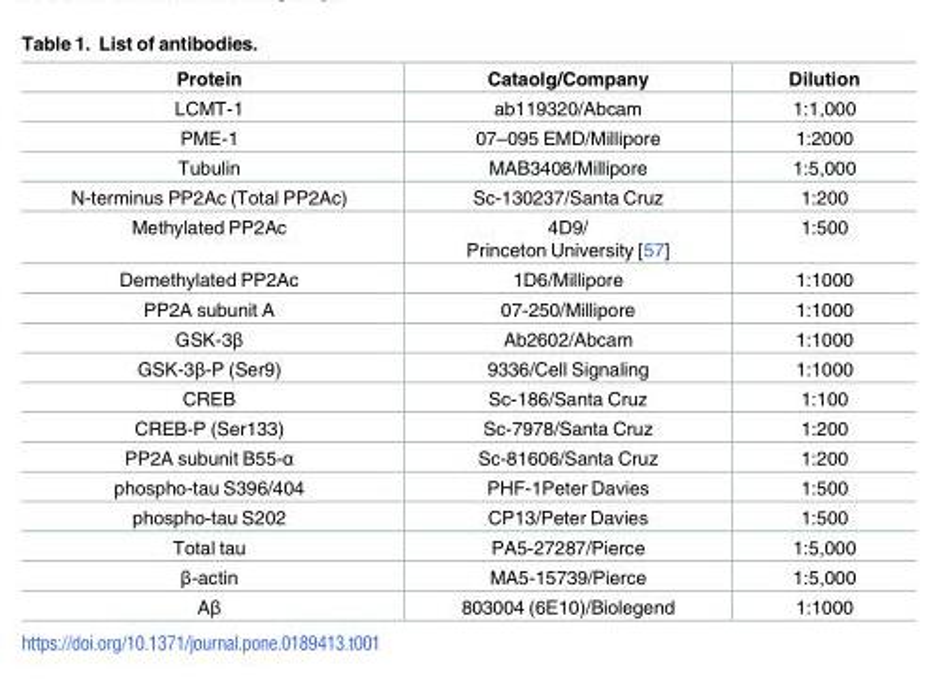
<table><thead><tr><td>Protein</td><td>Cataolg/Company</td><td>Dilution</td></tr></thead><tbody><tr><td>LCMT-1</td><td>ab119320/Abcam</td><td>1:1,000</td></tr><tr><td>PME-1</td><td>07–095 EMD/Millipore</td><td>1:2000</td></tr><tr><td>Tubulin</td><td>MAB3408/Millipore</td><td>1:5,000</td></tr><tr><td>N-terminus PP2Ac (Total PP2Ac)</td><td>Sc-130237/Santa Cruz</td><td>1:200</td></tr><tr><td>Methylated PP2Ac</td><td>4D9/ Princeton University [57]</td><td>1:500</td></tr><tr><td>Demethylated PP2Ac</td><td>1D6/Millipore</td><td>1:1000</td></tr><tr><td>PP2A subunit A</td><td>07-250/Millipore</td><td>1:1000</td></tr><tr><td>GSK-3β</td><td>Ab2602/Abcam</td><td>1:1000</td></tr><tr><td>GSK-3β-P (Ser9)</td><td>9336/Cell Signaling</td><td>1:1000</td></tr><tr><td>CREB</td><td>Sc-186/Santa Cruz</td><td>1:100</td></tr><tr><td>CREB-P (Ser133)</td><td>Sc-7978/Santa Cruz</td><td>1:200</td></tr><tr><td>PP2A subunit B55-α</td><td>Sc-81606/Santa Cruz</td><td>1:200</td></tr><tr><td>phospho-tau S396/404</td><td>PHF-1Peter Davies</td><td>1:500</td></tr><tr><td>phospho-tau S202</td><td>CP13/Peter Davies</td><td>1:500</td></tr><tr><td>Total tau</td><td>PA5-27287/Pierce</td><td>1:5,000</td></tr><tr><td>β-actin</td><td>MA5-15739/Pierce</td><td>1:5,000</td></tr><tr><td>Aβ</td><td>803004 (6E10)/Biolegend</td><td>1:1000</td></tr></tbody></table>